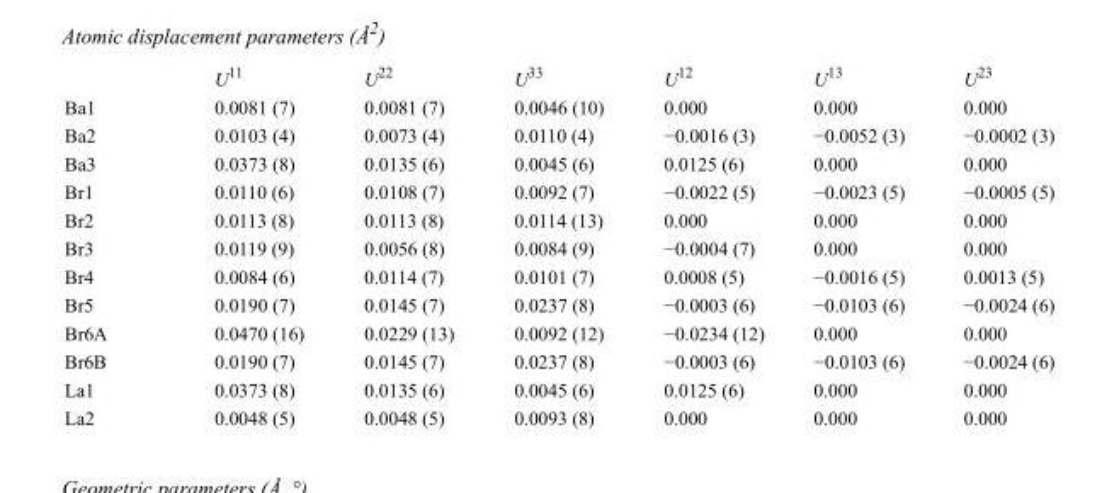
<table><thead><tr><td></td><td>U<sup>11</sup></td><td>U<sup>22</sup></td><td>U<sup>33</sup></td><td>U<sup>12</sup></td><td>U<sup>13</sup></td><td>U<sup>23</sup></td></tr></thead><tbody><tr><td>Ba1</td><td>0.0081 (7)</td><td>0.0081 (7)</td><td>0.0046 (10)</td><td>0.000</td><td>0.000</td><td>0.000</td></tr><tr><td>Ba2</td><td>0.0103 (4)</td><td>0.0073 (4)</td><td>0.0110 (4)</td><td>−0.0016 (3)</td><td>−0.0052 (3)</td><td>−0.0002 (3)</td></tr><tr><td>Ba3</td><td>0.0373 (8)</td><td>0.0135 (6)</td><td>0.0045 (6)</td><td>0.0125 (6)</td><td>0.000</td><td>0.000</td></tr><tr><td>Br1</td><td>0.0110 (6)</td><td>0.0108 (7)</td><td>0.0092 (7)</td><td>−0.0022 (5)</td><td>−0.0023 (5)</td><td>−0.0005 (5)</td></tr><tr><td>Br2</td><td>0.0113 (8)</td><td>0.0113 (8)</td><td>0.0114 (13)</td><td>0.000</td><td>0.000</td><td>0.000</td></tr><tr><td>Br3</td><td>0.0119 (9)</td><td>0.0056 (8)</td><td>0.0084 (9)</td><td>−0.0004 (7)</td><td>0.000</td><td>0.000</td></tr><tr><td>Br4</td><td>0.0084 (6)</td><td>0.0114 (7)</td><td>0.0101 (7)</td><td>0.0008 (5)</td><td>−0.0016 (5)</td><td>0.0013 (5)</td></tr><tr><td>Br5</td><td>0.0190 (7)</td><td>0.0145 (7)</td><td>0.0237 (8)</td><td>−0.0003 (6)</td><td>−0.0103 (6)</td><td>−0.0024 (6)</td></tr><tr><td>Br6A</td><td>0.0470 (16)</td><td>0.0229 (13)</td><td>0.0092 (12)</td><td>−0.0234 (12)</td><td>0.000</td><td>0.000</td></tr><tr><td>Br6B</td><td>0.0190 (7)</td><td>0.0145 (7)</td><td>0.0237 (8)</td><td>−0.0003 (6)</td><td>−0.0103 (6)</td><td>−0.0024 (6)</td></tr><tr><td>La1</td><td>0.0373 (8)</td><td>0.0135 (6)</td><td>0.0045 (6)</td><td>0.0125 (6)</td><td>0.000</td><td>0.000</td></tr><tr><td>La2</td><td>0.0048 (5)</td><td>0.0048 (5)</td><td>0.0093 (8)</td><td>0.000</td><td>0.000</td><td>0.000</td></tr></tbody></table>